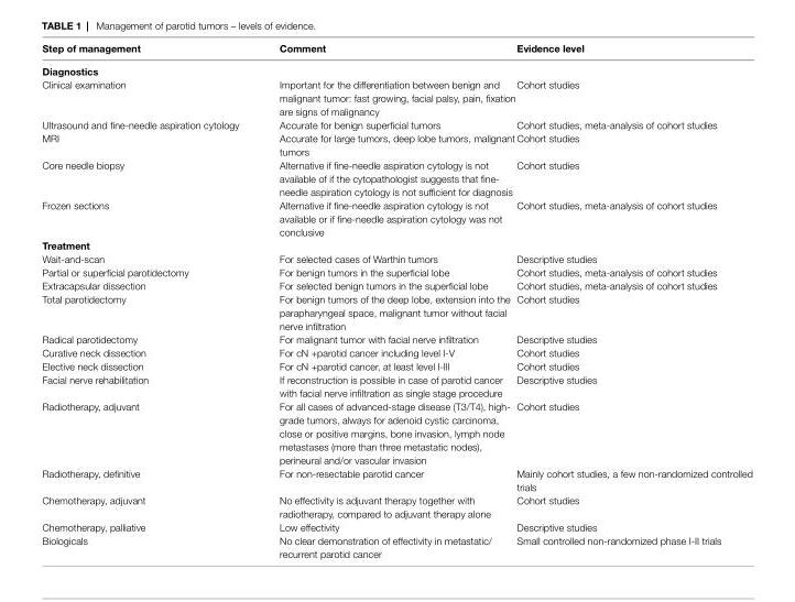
<table><thead><tr><td>step of management</td><td>Comment</td><td>evidence level</td></tr></thead><tbody><tr><td colspan="3">diagnostics</td></tr><tr><td>Clinical examination</td><td>Important for the differentiation between benign and malignant tumor: fast growing, facial palsy, pain, fixation are signs of malignancy</td><td>Cohort studies</td></tr><tr><td>Ultrasound and fine-needle aspiration cytology</td><td>Accurate for benign superficial tumors</td><td>Cohort studies, meta-analysis of cohort studies</td></tr><tr><td>MRI</td><td>Accurate for large tumors, deep lobe tumors, malignant tumors</td><td>Cohort studies</td></tr><tr><td>Core needle biopsy</td><td>Alternative if fine-needle aspiration cytology is not available of if the cytopathologist suggests that fine- needle aspiration cytology is not sufficient for diagnosis</td><td>Cohort studies</td></tr><tr><td>Frozen sections</td><td>Alternative if fine-needle aspiration cytology is not available or if fine-needle aspiration cytology was not conclusive</td><td>Cohort studies, meta-analysis of cohort studies</td></tr><tr><td colspan="3">Treatment</td></tr><tr><td>Wait-and-scan</td><td>For selected cases of Warthin tumors</td><td>Descriptive studies</td></tr><tr><td>Partial or superficial parotidectomy</td><td>For benign tumors in the superficial lobe</td><td>Cohort studies, meta-analysis of cohort studies</td></tr><tr><td>Extracapsular dissection</td><td>For selected benign tumors in the superficial lobe</td><td>Cohort studies, meta-analysis of cohort studies</td></tr><tr><td>Total parotidectomy</td><td>For benign tumors of the deep lobe, extension into the parapharyngeal space, malignant tumor without facial nerve infiltration</td><td>Cohort studies</td></tr><tr><td>Radical parotidectomy</td><td>For malignant tumor with facial nerve infiltration</td><td>Descriptive studies</td></tr><tr><td>Curative neck dissection</td><td>For cN +parotid cancer including level I-V</td><td>Cohort studies</td></tr><tr><td>Elective neck dissection</td><td>For cN +parotid cancer, at least level I-III</td><td>Cohort studies</td></tr><tr><td>Facial nerve rehabilitation</td><td>If reconstruction is possible in case of parotid cancer with facial nerve infiltration as single stage procedure</td><td>Descriptive studies</td></tr><tr><td>Radiotherapy, adjuvant</td><td>For all cases of advanced-stage disease (T3/T4), high- grade tumors, always for adenoid cystic carcinoma, close or positive margins, bone invasion, lymph node metastases (more than three metastatic nodes), perineural and/or vascular invasion</td><td>Cohort studies</td></tr><tr><td>Radiotherapy, definitive</td><td>For non-resectable parotid cancer</td><td>Mainly cohort studies, a few non-randomized controlled trials</td></tr><tr><td>Chemotherapy, adjuvant</td><td>No effectivity is adjuvant therapy together with radiotherapy, compared to adjuvant therapy alone</td><td>Cohort studies</td></tr><tr><td>Chemotherapy, palliative</td><td>Low effectivity</td><td>Descriptive studies</td></tr><tr><td>Biologicals</td><td>No clear demonstration of effectivity in metastatic/ recurrent parotid cancer</td><td>Small controlled non-randomized phase I-II trials</td></tr></tbody></table>